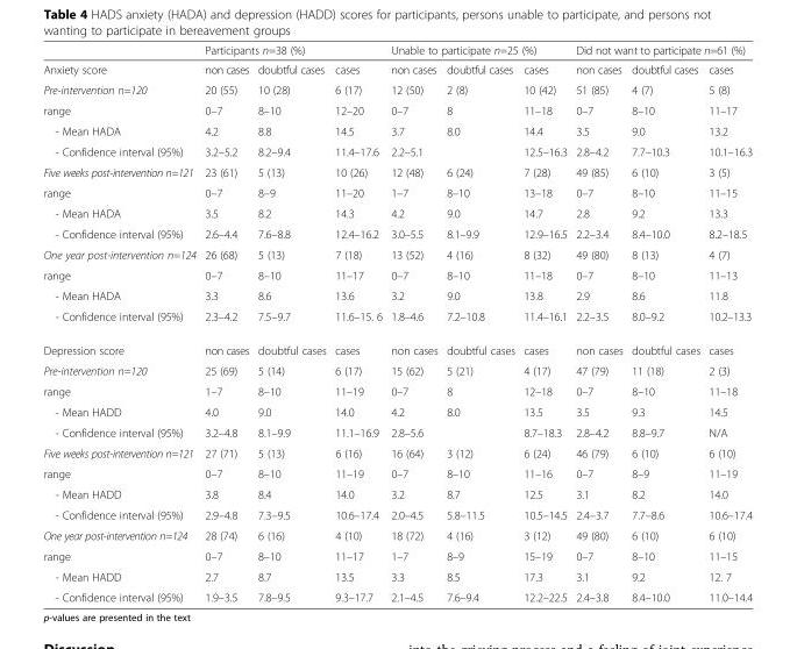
<table><thead><tr><td rowspan="2">Anxiety score</td><td colspan="3">Participants n=38 (%)</td><td colspan="3">Unable to participate n=25 (%)</td><td colspan="3">Did not want to participate n=61 (%)</td></tr><tr><td>non cases</td><td>doubtful cases</td><td>cases</td><td>non cases</td><td>doubtful cases</td><td>cases</td><td>non cases</td><td>doubtful cases</td><td>cases</td></tr></thead><tbody><tr><td>Pre-intervention n=120</td><td>20 (55)</td><td>10 (28)</td><td>6 (17)</td><td>12 (50)</td><td>2 (8)</td><td>10 (42)</td><td>51 (85)</td><td>4 (7)</td><td>5 (8)</td></tr><tr><td>range</td><td>0–7</td><td>8–10</td><td>12–20</td><td>0–7</td><td>8</td><td>11–18</td><td>0–7</td><td>8–10</td><td>11–17</td></tr><tr><td>- Mean HADA</td><td>4.2</td><td>8.8</td><td>14.5</td><td>3.7</td><td>8.0</td><td>14.4</td><td>3.5</td><td>9.0</td><td>13.2</td></tr><tr><td>- Confidence interval (95%)</td><td>3.2–5.2</td><td>8.2–9.4</td><td>11.4–17.6</td><td>2.2–5.1</td><td></td><td>12.5–16.3</td><td>2.8–4.2</td><td>7.7–10.3</td><td>10.1–16.3</td></tr><tr><td>Five weeks post-intervention n=121</td><td>23 (61)</td><td>5 (13)</td><td>10 (26)</td><td>12 (48)</td><td>6 (24)</td><td>7 (28)</td><td>49 (85)</td><td>6 (10)</td><td>3 (5)</td></tr><tr><td>range</td><td>0–7</td><td>8–9</td><td>11–20</td><td>1–7</td><td>8–10</td><td>13–18</td><td>0–7</td><td>8–10</td><td>11–15</td></tr><tr><td>- Mean HADA</td><td>3.5</td><td>8.2</td><td>14.3</td><td>4.2</td><td>9.0</td><td>14.7</td><td>2.8</td><td>9.2</td><td>13.3</td></tr><tr><td>- Confidence interval (95%)</td><td>2.6–4.4</td><td>7.6–8.8</td><td>12.4–16.2</td><td>3.0–5.5</td><td>8.1–9.9</td><td>12.9–16.5</td><td>2.2–3.4</td><td>8.4–10.0</td><td>8.2–18.5</td></tr><tr><td>One year post-intervention n=124</td><td>26 (68)</td><td>5 (13)</td><td>7 (18)</td><td>13 (52)</td><td>4 (16)</td><td>8 (32)</td><td>49 (80)</td><td>8 (13)</td><td>4 (7)</td></tr><tr><td>range</td><td>0–7</td><td>8–10</td><td>11–17</td><td>0–7</td><td>8–10</td><td>11–18</td><td>0–7</td><td>8–10</td><td>11–13</td></tr><tr><td>- Mean HADA</td><td>3.3</td><td>8.6</td><td>13.6</td><td>3.2</td><td>9.0</td><td>13.8</td><td>2.9</td><td>8.6</td><td>11.8</td></tr><tr><td>- Confidence interval (95%)</td><td>2.3–4.2</td><td>7.5–9.7</td><td>11.6–15. 6</td><td>1.8–4.6</td><td>7.2–10.8</td><td>11.4–16.1</td><td>2.2–3.5</td><td>8.0–9.2</td><td>10.2–13.3</td></tr><tr><td>Depression score</td><td>non cases</td><td>doubtful cases</td><td>cases</td><td>non cases</td><td>doubtful cases</td><td>cases</td><td>non cases</td><td>doubtful cases</td><td>cases</td></tr><tr><td>Pre-intervention n=120</td><td>25 (69)</td><td>5 (14)</td><td>6 (17)</td><td>15 (62)</td><td>5 (21)</td><td>4 (17)</td><td>47 (79)</td><td>11 (18)</td><td>2 (3)</td></tr><tr><td>range</td><td>1–7</td><td>8–10</td><td>11–19</td><td>0–7</td><td>8</td><td>12–18</td><td>0–7</td><td>8–10</td><td>11–18</td></tr><tr><td>- Mean HADD</td><td>4.0</td><td>9.0</td><td>14.0</td><td>4.2</td><td>8.0</td><td>13.5</td><td>3.5</td><td>9.3</td><td>14.5</td></tr><tr><td>- Confidence interval (95%)</td><td>3.2–4.8</td><td>8.1–9.9</td><td>11.1–16.9</td><td>2.8–5.6</td><td></td><td>8.7–18.3</td><td>2.8–4.2</td><td>8.8–9.7</td><td>N/A</td></tr><tr><td>Five weeks post-intervention n=121</td><td>27 (71)</td><td>5 (13)</td><td>6 (16)</td><td>16 (64)</td><td>3 (12)</td><td>6 (24)</td><td>46 (79)</td><td>6 (10)</td><td>6 (10)</td></tr><tr><td>range</td><td>0–7</td><td>8–10</td><td>11–19</td><td>0–7</td><td>8–10</td><td>11–16</td><td>0–7</td><td>8–9</td><td>11–19</td></tr><tr><td>- Mean HADD</td><td>3.8</td><td>8.4</td><td>14.0</td><td>3.2</td><td>8.7</td><td>12.5</td><td>3.1</td><td>8.2</td><td>14.0</td></tr><tr><td>- Confidence interval (95%)</td><td>2.9–4.8</td><td>7.3–9.5</td><td>10.6–17.4</td><td>2.0–4.5</td><td>5.8–11.5</td><td>10.5–14.5</td><td>2.4–3.7</td><td>7.7–8.6</td><td>10.6–17.4</td></tr><tr><td>One year post-intervention n=124</td><td>28 (74)</td><td>6 (16)</td><td>4 (10)</td><td>18 (72)</td><td>4 (16)</td><td>3 (12)</td><td>49 (80)</td><td>6 (10)</td><td>6 (10)</td></tr><tr><td>range</td><td>0–7</td><td>8–10</td><td>11–17</td><td>1–7</td><td>8–9</td><td>15–19</td><td>0–7</td><td>8–10</td><td>11–15</td></tr><tr><td>- Mean HADD</td><td>2.7</td><td>8.7</td><td>13.5</td><td>3.3</td><td>8.5</td><td>17.3</td><td>3.1</td><td>9.2</td><td>12. 7</td></tr><tr><td>- Confidence interval (95%)</td><td>1.9–3.5</td><td>7.8–9.5</td><td>9.3–17.7</td><td>2.1–4.5</td><td>7.6–9.4</td><td>12.2–22.5</td><td>2.4–3.8</td><td>8.4–10.0</td><td>11.0–14.4</td></tr></tbody></table>